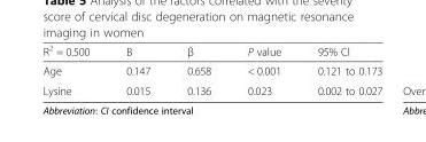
<table><thead><tr><td>R<sup>2</sup> = 0.500</td><td>B</td><td>β</td><td>P value</td><td>95% CI</td></tr></thead><tbody><tr><td>Age</td><td>0.147</td><td>0.658</td><td>&lt; 0.001</td><td>0.121 to 0.173</td></tr><tr><td>Lysine</td><td>0.015</td><td>0.136</td><td>0.023</td><td>0.002 to 0.027</td></tr></tbody></table>